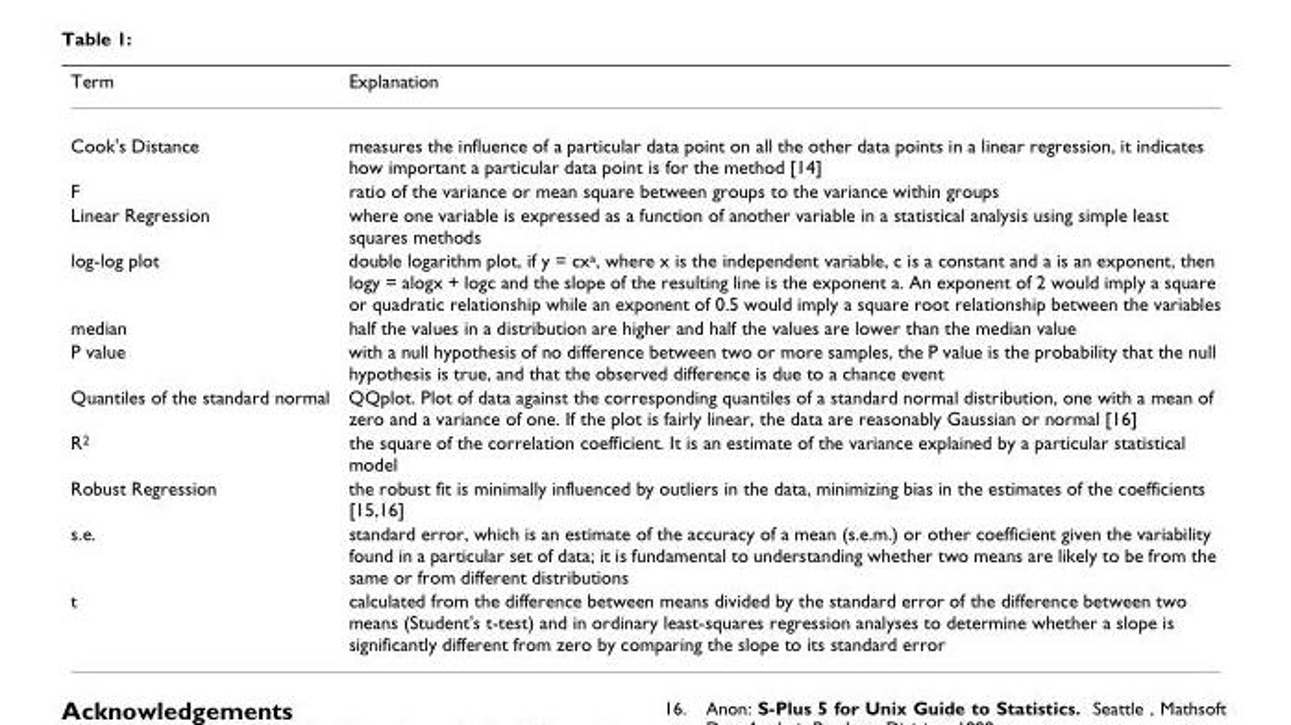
<table><thead><tr><td>Term</td><td>Explanation</td></tr></thead><tbody><tr><td>Cook&#x27;s Distance</td><td>measures the influence of a particular data point on all the other data points in a linear regression, it indicates how important a particular data point is for the method [14]</td></tr><tr><td>F</td><td>ratio of the variance or mean square between groups to the variance within groups</td></tr><tr><td>Linear Regression</td><td>where one variable is expressed as a function of another variable in a statistical analysis using simple least squares methods</td></tr><tr><td>log-log plot</td><td>double logarithm plot, if y = cx<sup>a</sup>, where x is the independent variable, c is a constant and a is an exponent, then logy = alogx + logc and the slope of the resulting line is the exponent a. An exponent of 2 would imply a square or quadratic relationship while an exponent of 0.5 would imply a square root relationship between the variables</td></tr><tr><td>median</td><td>half the values in a distribution are higher and half the values are lower than the median value</td></tr><tr><td>P value</td><td>with a null hypothesis of no difference between two or more samples, the P value is the probability that the null hypothesis is true, and that the observed difference is due to a chance event</td></tr><tr><td>Quantiles of the standard normal</td><td>QQplot. Plot of data against the corresponding quantiles of a standard normal distribution, one with a mean of zero and a variance of one. If the plot is fairly linear, the data are reasonably Gaussian or normal [16]</td></tr><tr><td>R<sup>2</sup></td><td>the square of the correlation coefficient. It is an estimate of the variance explained by a particular statistical model</td></tr><tr><td>Robust Regression</td><td>the robust fit is minimally influenced by outliers in the data, minimizing bias in the estimates of the coefficients [15,16]</td></tr><tr><td>s.e.</td><td>standard error, which is an estimate of the accuracy of a mean (s.e.m.) or other coefficient given the variability found in a particular set of data; it is fundamental to understanding whether two means are likely to be from the same or from different distributions</td></tr><tr><td>t</td><td>calculated from the difference between means divided by the standard error of the difference between two means (Student&#x27;s t-test) and in ordinary least-squares regression analyses to determine whether a slope is significantly different from zero by comparing the slope to its standard error</td></tr></tbody></table>